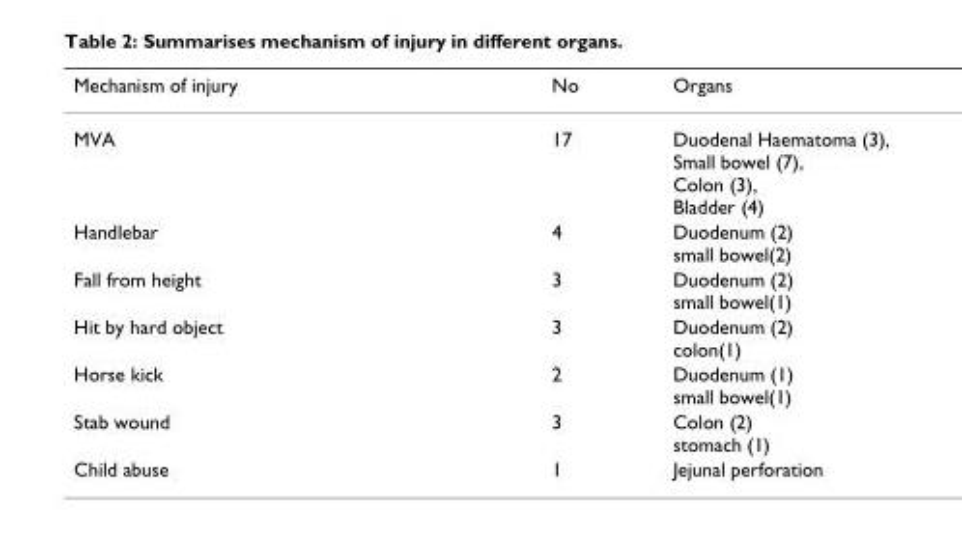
<table><thead><tr><td>Mechanism of injury</td><td>No</td><td>Organs</td></tr></thead><tbody><tr><td>MVA</td><td>17</td><td>Duodenal Haematoma (3), Small bowel (7), Colon (3), Bladder (4)</td></tr><tr><td>Handlebar</td><td>4</td><td>Duodenum (2) small bowel(2)</td></tr><tr><td>Fall from height</td><td>3</td><td>Duodenum (2) small bowel(1)</td></tr><tr><td>Hit by hard object</td><td>3</td><td>Duodenum (2) colon(1)</td></tr><tr><td>Horse kick</td><td>2</td><td>Duodenum (1) small bowel(1)</td></tr><tr><td>Stab wound</td><td>3</td><td>Colon (2) stomach (1)</td></tr><tr><td>Child abuse</td><td>1</td><td>Jejunal perforation</td></tr></tbody></table>